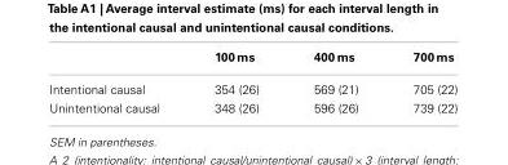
<table><thead><tr><td></td><td>100 ms</td><td>400 ms</td><td>700 ms</td></tr></thead><tbody><tr><td>Intentional causal</td><td>354 (26)</td><td>569 (21)</td><td>705 (22)</td></tr><tr><td>Unintentional causal</td><td>348 (26)</td><td>596 (26)</td><td>739 (22)</td></tr></tbody></table>